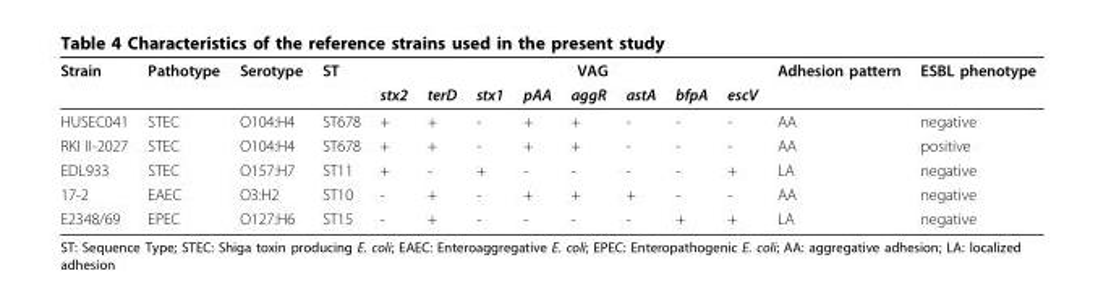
<table><thead><tr><td rowspan="2">Strain</td><td rowspan="2">Pathotype</td><td rowspan="2">Serotype</td><td rowspan="2">ST</td><td rowspan="2">stx2</td><td rowspan="2">terD</td><td rowspan="2">stx1</td><td rowspan="2">pAA</td><td rowspan="2">VAG aggR</td><td rowspan="2">astA</td><td rowspan="2">bfpA</td><td rowspan="2">escV</td><td rowspan="2">Adhesion pattern</td><td rowspan="2">ESBL phenotype</td></tr><tr></tr></thead><tbody><tr><td>HUSEC041</td><td>STEC</td><td>O104:H4</td><td>ST678</td><td>+</td><td>+</td><td>-</td><td>+</td><td>+</td><td>-</td><td>-</td><td>-</td><td>AA</td><td>negative</td></tr><tr><td>RKI II-2027</td><td>STEC</td><td>O104:H4</td><td>ST678</td><td>+</td><td>+</td><td>-</td><td>+</td><td>+</td><td>-</td><td>-</td><td>-</td><td>AA</td><td>positive</td></tr><tr><td>EDL933</td><td>STEC</td><td>O157:H7</td><td>ST11</td><td>+</td><td>-</td><td>+</td><td>-</td><td>-</td><td>-</td><td>-</td><td>+</td><td>LA</td><td>negative</td></tr><tr><td>17-2</td><td>EAEC</td><td>O3:H2</td><td>ST10</td><td>-</td><td>+</td><td>-</td><td>+</td><td>+</td><td>+</td><td>-</td><td>-</td><td>AA</td><td>negative</td></tr><tr><td>E2348/69</td><td>EPEC</td><td>O127:H6</td><td>ST15</td><td>-</td><td>+</td><td>-</td><td>-</td><td>-</td><td>-</td><td>+</td><td>+</td><td>LA</td><td>negative</td></tr></tbody></table>